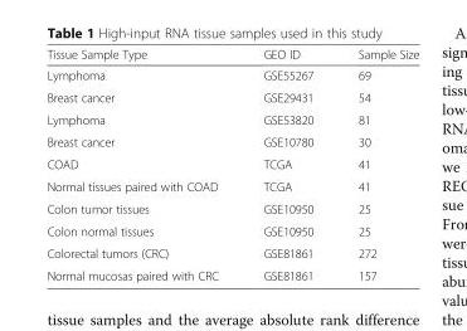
<table><thead><tr><td>Tissue Sample Type</td><td>GEO ID</td><td>Sample Size</td></tr></thead><tbody><tr><td>Lymphoma</td><td>GSE55267</td><td>69</td></tr><tr><td>Breast cancer</td><td>GSE29431</td><td>54</td></tr><tr><td>Lymphoma</td><td>GSE53820</td><td>81</td></tr><tr><td>Breast cancer</td><td>GSE10780</td><td>30</td></tr><tr><td>COAD</td><td>TCGA</td><td>41</td></tr><tr><td>Normal tissues paired with COAD</td><td>TCGA</td><td>41</td></tr><tr><td>Colon tumor tissues</td><td>GSE10950</td><td>25</td></tr><tr><td>Colon normal tissues</td><td>GSE10950</td><td>25</td></tr><tr><td>Colorectal tumors (CRC)</td><td>GSE81861</td><td>272</td></tr><tr><td>Normal mucosas paired with CRC</td><td>GSE81861</td><td>157</td></tr></tbody></table>